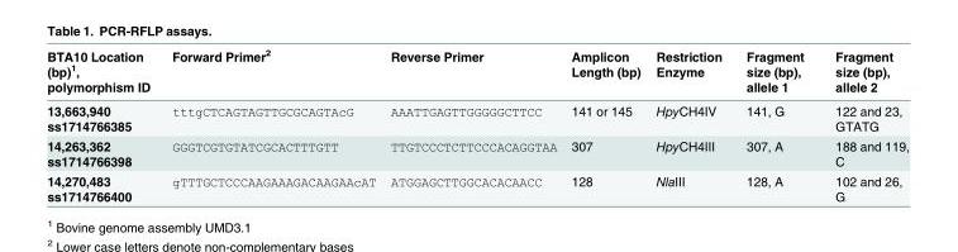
<table><thead><tr><td>BTA10 Location (bp)<sup>1</sup>, polymorphism ID</td><td>Forward Primer<sup>2</sup></td><td>Reverse Primer</td><td>Amplicon Length (bp)</td><td>Restriction Enzyme</td><td>Fragment size (bp), allele 1</td><td>Fragment size (bp), allele 2</td></tr></thead><tbody><tr><td>13,663,940 ss1714766385</td><td>tttgCTCAGTAGTTGCGCAGTAcG</td><td>AAATTGAGTTGGGGGCTTCC</td><td>141 or 145</td><td>HpyCH4IV</td><td>141, G</td><td>122 and 23, GTATG</td></tr><tr><td>14,263,362 ss1714766398</td><td>GGGTCGTGTATCGCACTTTGTT</td><td>TTGTCCCTCTTCCCACAGGTAA</td><td>307</td><td>HpyCH4III</td><td>307, A</td><td>188 and 119, C</td></tr><tr><td>14,270,483 ss1714766400</td><td>gTTTGCTCCCAAGAAAGACAAGAAcAT</td><td>ATGGAGCTTGGCACACAACC</td><td>128</td><td>NlaIII</td><td>128, A</td><td>102 and 26, G</td></tr></tbody></table>